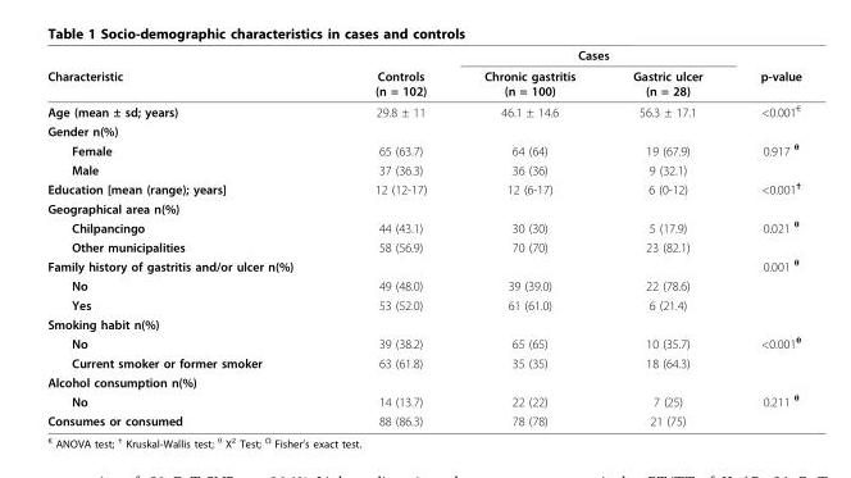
<table><thead><tr><td rowspan="2">Characteristic</td><td rowspan="2">Controls (n = 102)</td><td colspan="2">Cases</td><td rowspan="2">p-value</td></tr><tr><td>Chronic gastritis (n = 100)</td><td>Gastric ulcer (n = 28)</td></tr></thead><tbody><tr><td>Age (mean ± sd; years)</td><td>29.8 ± 11</td><td>46.1 ± 14.6</td><td>56.3 ± 17.1</td><td>&lt;0.001<sup>€</sup></td></tr><tr><td colspan="5">Gender n(%)</td></tr><tr><td>Female</td><td>65 (63.7)</td><td>64 (64)</td><td>19 (67.9)</td><td>0.917 <sup>θ</sup></td></tr><tr><td>Male</td><td>37 (36.3)</td><td>36 (36)</td><td>9 (32.1)</td><td></td></tr><tr><td>Education [mean (range); years]</td><td>12 (12-17)</td><td>12 (6-17)</td><td>6 (0-12)</td><td>&lt;0.001<sup>†</sup></td></tr><tr><td colspan="5">Geographical area n(%)</td></tr><tr><td>Chilpancingo</td><td>44 (43.1)</td><td>30 (30)</td><td>5 (17.9)</td><td>0.021 <sup>θ</sup></td></tr><tr><td>Other municipalities</td><td>58 (56.9)</td><td>70 (70)</td><td>23 (82.1)</td><td></td></tr><tr><td>Family history of gastritis and/or ulcer n(%)</td><td></td><td></td><td></td><td>0.001 <sup>θ</sup></td></tr><tr><td>No</td><td>49 (48.0)</td><td>39 (39.0)</td><td>22 (78.6)</td><td></td></tr><tr><td>Yes</td><td>53 (52.0)</td><td>61 (61.0)</td><td>6 (21.4)</td><td></td></tr><tr><td colspan="5">Smoking habit n(%)</td></tr><tr><td>No</td><td>39 (38.2)</td><td>65 (65)</td><td>10 (35.7)</td><td>&lt;0.001<sup>θ</sup></td></tr><tr><td>Current smoker or former smoker</td><td>63 (61.8)</td><td>35 (35)</td><td>18 (64.3)</td><td></td></tr><tr><td colspan="5">Alcohol consumption n(%)</td></tr><tr><td>No</td><td>14 (13.7)</td><td>22 (22)</td><td>7 (25)</td><td>0.211 <sup>θ</sup></td></tr><tr><td>Consumes or consumed</td><td>88 (86.3)</td><td>78 (78)</td><td>21 (75)</td><td></td></tr></tbody></table>